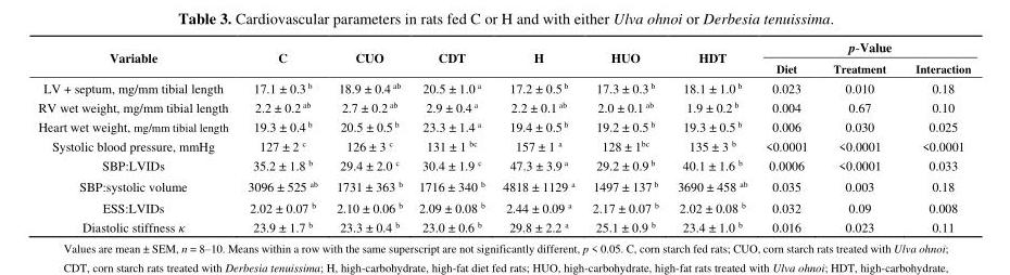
<table><thead><tr><td rowspan="2">Variable</td><td rowspan="2">C</td><td rowspan="2">CUO</td><td rowspan="2">CDT</td><td rowspan="2">H</td><td rowspan="2">HUO</td><td rowspan="2">HDT</td><td colspan="3">p-Value</td></tr><tr><td>Diet</td><td>Treatment</td><td>Interaction</td></tr></thead><tbody><tr><td>LV + septum, mg/mm tibial length</td><td>17.1 ± 0.3 <sup>b</sup></td><td>18.9 ± 0.4 <sup>ab</sup></td><td>20.5 ± 1.0 <sup>a</sup></td><td>17.2 ± 0.5 <sup>b</sup></td><td>17.3 ± 0.3 <sup>b</sup></td><td>18.1 ± 1.0 <sup>b</sup></td><td>0.023</td><td>0.010</td><td>0.18</td></tr><tr><td>RV wet weight, mg/mm tibial length</td><td>2.2 ± 0.2 <sup>ab</sup></td><td>2.7 ± 0.2 <sup>ab</sup></td><td>2.9 ± 0.4 <sup>a</sup></td><td>2.2 ± 0.1 <sup>ab</sup></td><td>2.0 ± 0.1 <sup>ab</sup></td><td>1.9 ± 0.2 <sup>b</sup></td><td>0.004</td><td>0.67</td><td>0.10</td></tr><tr><td>Heart wet weight, mg/mm tibial length</td><td>19.3 ± 0.4 <sup>b</sup></td><td>20.5 ± 0.5 <sup>b</sup></td><td>23.3 ± 1.4 <sup>a</sup></td><td>19.4 ± 0.5 <sup>b</sup></td><td>19.2 ± 0.5 <sup>b</sup></td><td>19.3 ± 0.5 <sup>b</sup></td><td>0.006</td><td>0.030</td><td>0.025</td></tr><tr><td>Systolic blood pressure, mmHg</td><td>127 ± 2 <sup>c</sup></td><td>126 ± 3 <sup>c</sup></td><td>131 ± 1 <sup>bc</sup></td><td>157 ± 1 <sup>a</sup></td><td>128 ± 1<sup>bc</sup></td><td>135 ± 3 <sup>b</sup></td><td>&lt;0.0001</td><td>&lt;0.0001</td><td>&lt;0.0001</td></tr><tr><td>SBP:LVIDs</td><td>35.2 ± 1.8 <sup>b</sup></td><td>29.4 ± 2.0 <sup>c</sup></td><td>30.4 ± 1.9 <sup>c</sup></td><td>47.3 ± 3.9 <sup>a</sup></td><td>29.2 ± 0.9 <sup>b</sup></td><td>40.1 ± 1.6 <sup>b</sup></td><td>0.0006</td><td>&lt;0.0001</td><td>0.033</td></tr><tr><td>SBP:systolic volume</td><td>3096 ± 525 <sup>ab</sup></td><td>1731 ± 363 <sup>b</sup></td><td>1716 ± 340 <sup>b</sup></td><td>4818 ± 1129 <sup>a</sup></td><td>1497 ± 137 <sup>b</sup></td><td>3690 ± 458 <sup>ab</sup></td><td>0.035</td><td>0.003</td><td>0.18</td></tr><tr><td>ESS:LVIDs</td><td>2.02 ± 0.07 <sup>b</sup></td><td>2.10 ± 0.06 <sup>b</sup></td><td>2.09 ± 0.08 <sup>b</sup></td><td>2.44 ± 0.09 <sup>a</sup></td><td>2.17 ± 0.07 <sup>b</sup></td><td>2.02 ± 0.08 <sup>b</sup></td><td>0.032</td><td>0.09</td><td>0.008</td></tr><tr><td>Diastolic stiffness κ</td><td>23.9 ± 1.7 <sup>b</sup></td><td>23.3 ± 0.4 <sup>b</sup></td><td>23.0 ± 0.6 <sup>b</sup></td><td>29.8 ± 2.2 <sup>a</sup></td><td>25.1 ± 0.9 <sup>b</sup></td><td>23.4 ± 1.0 <sup>b</sup></td><td>0.016</td><td>0.023</td><td>0.11</td></tr></tbody></table>